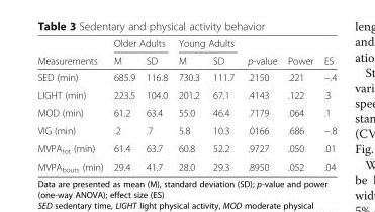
<table><thead><tr><td rowspan="2">Measurements</td><td colspan="2">Older Adults</td><td colspan="2">Young Adults</td><td rowspan="2">p-value</td><td rowspan="2">Power</td><td rowspan="2">ES</td></tr><tr><td>M</td><td>SD</td><td>M</td><td>SD</td></tr></thead><tbody><tr><td>SED (min)</td><td>685.9</td><td>116.8</td><td>730.3</td><td>111.7</td><td>.2150</td><td>.221</td><td>−.4</td></tr><tr><td>LIGHT (min)</td><td>223.5</td><td>104.0</td><td>201.2</td><td>67.1</td><td>.4143</td><td>.122</td><td>.3</td></tr><tr><td>MOD (min)</td><td>61.2</td><td>63.4</td><td>55.0</td><td>46.4</td><td>.7179</td><td>.064</td><td>.1</td></tr><tr><td>VIG (min)</td><td>.2</td><td>.7</td><td>5.8</td><td>10.3</td><td>.0166</td><td>.686</td><td>−.8</td></tr><tr><td>MVPA<sub>tot</sub> (min)</td><td>61.4</td><td>63.7</td><td>60.8</td><td>52.2</td><td>.9727</td><td>.050</td><td>.01</td></tr><tr><td>MVPA<sub>bouts</sub> (min)</td><td>29.4</td><td>41.7</td><td>28.0</td><td>29.3</td><td>.8950</td><td>.052</td><td>.04</td></tr></tbody></table>